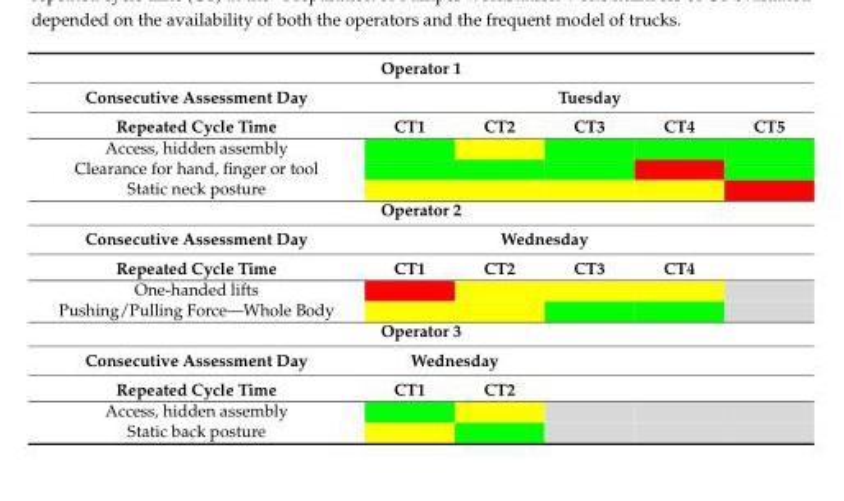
<table><tbody><tr><td colspan="6">Operator 1</td></tr><tr><td>Consecutive Assessment Day</td><td colspan="5">Tuesday</td></tr><tr><td>Repeated Cycle Time</td><td>CT1</td><td>CT2</td><td>CT3</td><td>CT4</td><td>CT5</td></tr><tr><td colspan="6">Access, hidden assembly</td></tr><tr><td colspan="6">Clearance for hand, finger or tool</td></tr><tr><td colspan="6">Static neck posture</td></tr><tr><td colspan="6">Operator 2</td></tr><tr><td>Consecutive Assessment Day</td><td colspan="4">Wednesday</td><td></td></tr><tr><td>Repeated Cycle Time</td><td>CT1</td><td>CT2</td><td>CT3</td><td>CT4</td><td></td></tr><tr><td colspan="6">One-handed lifts</td></tr><tr><td colspan="6">Pushing/Pulling Force—Whole Body</td></tr><tr><td colspan="6">Operator 3</td></tr><tr><td>Consecutive Assessment Day</td><td colspan="2">Wednesday</td><td></td><td></td><td></td></tr><tr><td>Repeated Cycle Time</td><td>CT1</td><td>CT2</td><td></td><td></td><td></td></tr><tr><td colspan="6">Access, hidden assembly</td></tr><tr><td>Static back posture</td><td></td><td></td><td></td><td></td><td></td></tr></tbody></table>